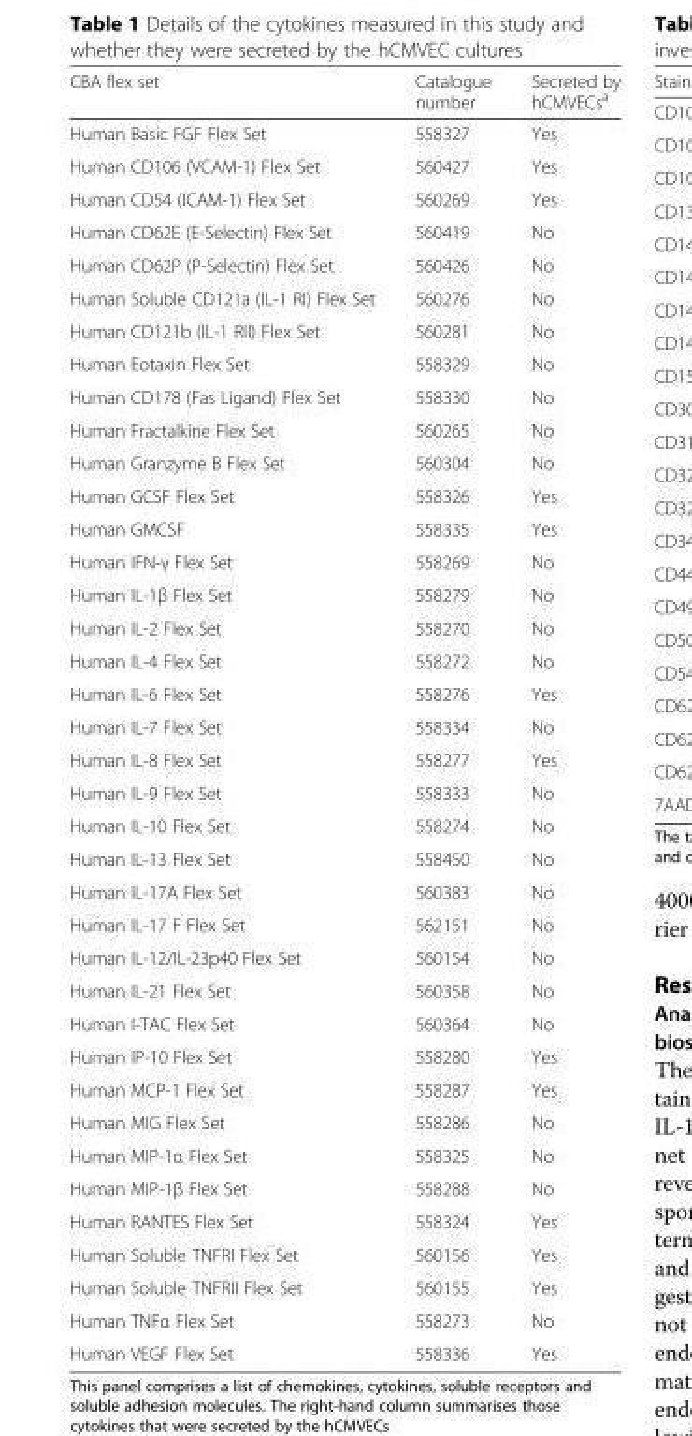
<table><thead><tr><td>CBA flex set</td><td>Catalogue number</td><td>Secreted by hCMVECs<sup>a</sup></td></tr></thead><tbody><tr><td>Human Basic FGF Flex Set</td><td>558327</td><td>Yes</td></tr><tr><td>Human CD106 (VCAM-1) Flex Set</td><td>560427</td><td>Yes</td></tr><tr><td>Human CD54 (ICAM-1) Flex Set</td><td>560269</td><td>Yes</td></tr><tr><td>Human CD62E (E-Selectin) Flex Set</td><td>560419</td><td>No</td></tr><tr><td>Human CD62P (P-Selectin) Flex Set</td><td>560426</td><td>No</td></tr><tr><td>Human Soluble CD121a (IL-1 RI) Flex Set</td><td>560276</td><td>No</td></tr><tr><td>Human CD121b (IL-1 RII) Flex Set</td><td>560281</td><td>No</td></tr><tr><td>Human Eotaxin Flex Set</td><td>558329</td><td>No</td></tr><tr><td>Human CD178 (Fas Ligand) Flex Set</td><td>558330</td><td>No</td></tr><tr><td>Human Fractalkine Flex Set</td><td>560265</td><td>No</td></tr><tr><td>Human Granzyme B Flex Set</td><td>560304</td><td>No</td></tr><tr><td>Human GCSF Flex Set</td><td>558326</td><td>Yes</td></tr><tr><td>Human GMCSF</td><td>558335</td><td>Yes</td></tr><tr><td>Human IFN-γ Flex Set</td><td>558269</td><td>No</td></tr><tr><td>Human IL-1β Flex Set</td><td>558279</td><td>No</td></tr><tr><td>Human IL-2 Flex Set</td><td>558270</td><td>No</td></tr><tr><td>Human IL-4 Flex Set</td><td>558272</td><td>No</td></tr><tr><td>Human IL-6 Flex Set</td><td>558276</td><td>Yes</td></tr><tr><td>Human IL-7 Flex Set</td><td>558334</td><td>No</td></tr><tr><td>Human IL-8 Flex Set</td><td>558277</td><td>Yes</td></tr><tr><td>Human IL-9 Flex Set</td><td>558333</td><td>No</td></tr><tr><td>Human IL-10 Flex Set</td><td>558274</td><td>No</td></tr><tr><td>Human IL-13 Flex Set</td><td>558450</td><td>No</td></tr><tr><td>Human IL-17A Flex Set</td><td>560383</td><td>No</td></tr><tr><td>Human IL-17 F Flex Set</td><td>562151</td><td>No</td></tr><tr><td>Human IL-12/IL-23p40 Flex Set</td><td>560154</td><td>No</td></tr><tr><td>Human IL-21 Flex Set</td><td>560358</td><td>No</td></tr><tr><td>Human I-TAC Flex Set</td><td>560364</td><td>No</td></tr><tr><td>Human IP-10 Flex Set</td><td>558280</td><td>Yes</td></tr><tr><td>Human MCP-1 Flex Set</td><td>558287</td><td>Yes</td></tr><tr><td>Human MIG Flex Set</td><td>558286</td><td>No</td></tr><tr><td>Human MIP-1α Flex Set</td><td>558325</td><td>No</td></tr><tr><td>Human MIP-1β Flex Set</td><td>558288</td><td>No</td></tr><tr><td>Human RANTES Flex Set</td><td>558324</td><td>Yes</td></tr><tr><td>Human Soluble TNFRI Flex Set</td><td>560156</td><td>Yes</td></tr><tr><td>Human Soluble TNFRII Flex Set</td><td>560155</td><td>Yes</td></tr><tr><td>Human TNFα Flex Set</td><td>558273</td><td>No</td></tr><tr><td>Human VEGF Flex Set</td><td>558336</td><td>Yes</td></tr></tbody></table>